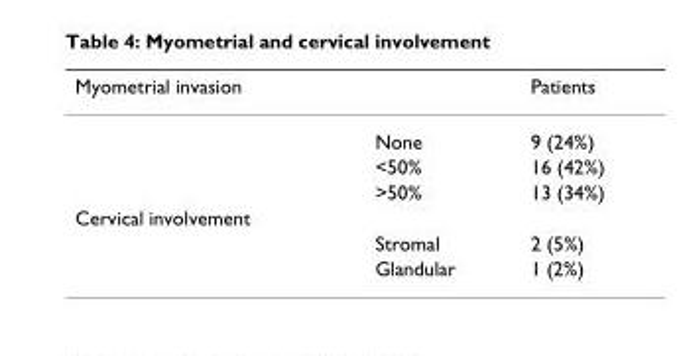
<table><thead><tr><td>Myometrial invasion</td><td></td><td>Patients</td></tr></thead><tbody><tr><td></td><td>None</td><td>9 (24%)</td></tr><tr><td></td><td>&lt;50%</td><td>16 (42%)</td></tr><tr><td></td><td>&gt;50%</td><td>13 (34%)</td></tr><tr><td colspan="3">Cervical involvement</td></tr><tr><td></td><td>Stromal</td><td>2 (5%)</td></tr><tr><td></td><td>Glandular</td><td>1 (2%)</td></tr></tbody></table>